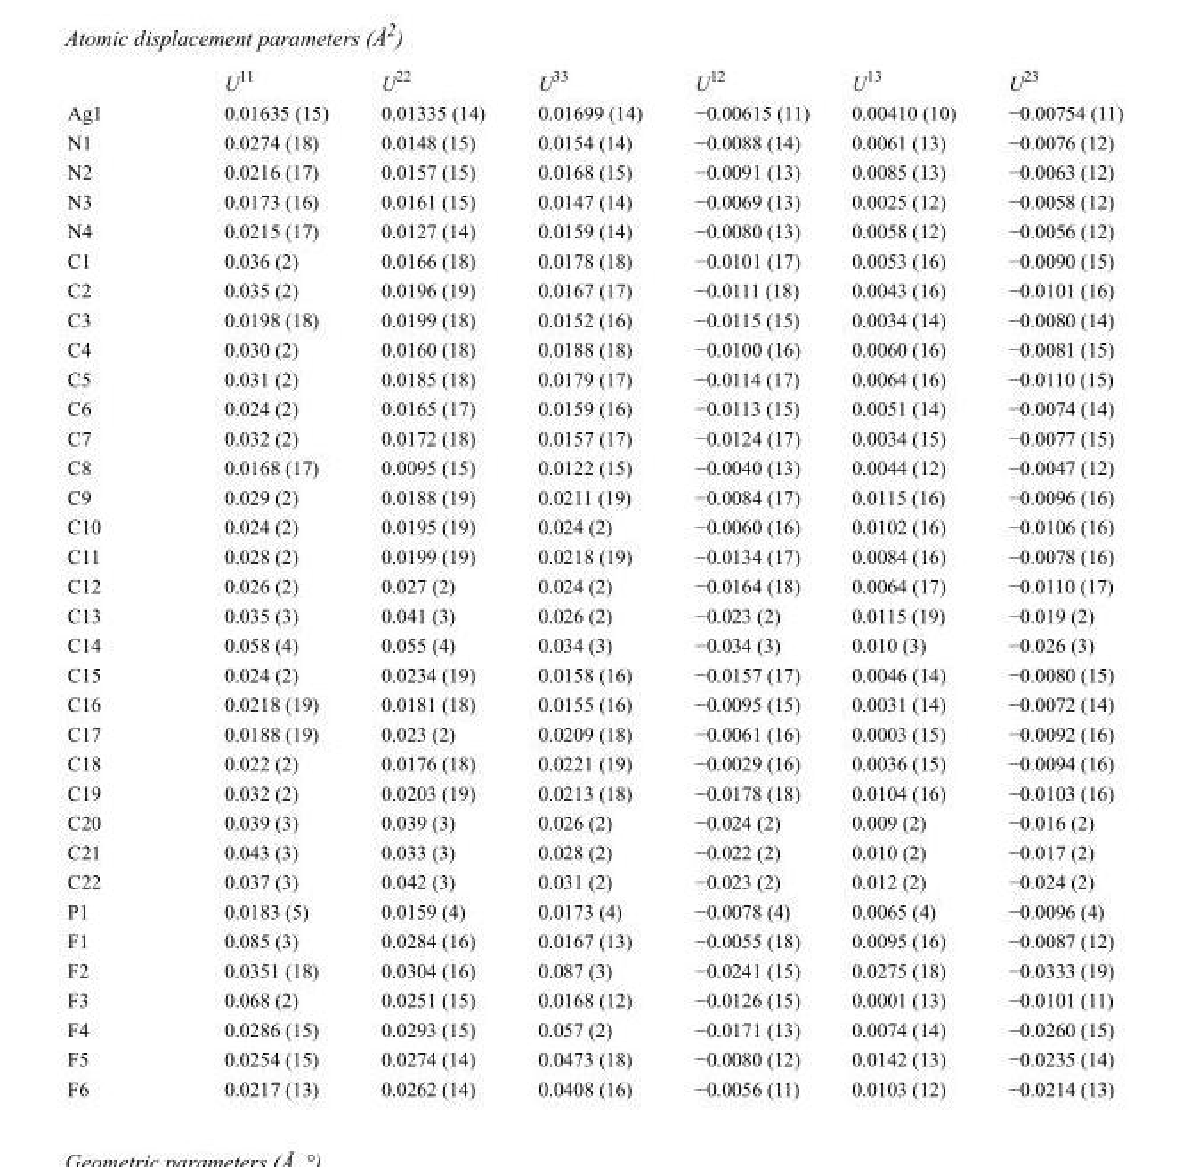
<table><thead><tr><td></td><td>U<sup>11</sup></td><td>U<sup>22</sup></td><td>U<sup>33</sup></td><td>U<sup>12</sup></td><td>U<sup>13</sup></td><td>U<sup>23</sup></td></tr></thead><tbody><tr><td>Ag1</td><td>0.01635 (15)</td><td>0.01335 (14)</td><td>0.01699 (14)</td><td>−0.00615 (11)</td><td>0.00410 (10)</td><td>−0.00754 (11)</td></tr><tr><td>N1</td><td>0.0274 (18)</td><td>0.0148 (15)</td><td>0.0154 (14)</td><td>−0.0088 (14)</td><td>0.0061 (13)</td><td>−0.0076 (12)</td></tr><tr><td>N2</td><td>0.0216 (17)</td><td>0.0157 (15)</td><td>0.0168 (15)</td><td>−0.0091 (13)</td><td>0.0085 (13)</td><td>−0.0063 (12)</td></tr><tr><td>N3</td><td>0.0173 (16)</td><td>0.0161 (15)</td><td>0.0147 (14)</td><td>−0.0069 (13)</td><td>0.0025 (12)</td><td>−0.0058 (12)</td></tr><tr><td>N4</td><td>0.0215 (17)</td><td>0.0127 (14)</td><td>0.0159 (14)</td><td>−0.0080 (13)</td><td>0.0058 (12)</td><td>−0.0056 (12)</td></tr><tr><td>C1</td><td>0.036 (2)</td><td>0.0166 (18)</td><td>0.0178 (18)</td><td>−0.0101 (17)</td><td>0.0053 (16)</td><td>−0.0090 (15)</td></tr><tr><td>C2</td><td>0.035 (2)</td><td>0.0196 (19)</td><td>0.0167 (17)</td><td>−0.0111 (18)</td><td>0.0043 (16)</td><td>−0.0101 (16)</td></tr><tr><td>C3</td><td>0.0198 (18)</td><td>0.0199 (18)</td><td>0.0152 (16)</td><td>−0.0115 (15)</td><td>0.0034 (14)</td><td>−0.0080 (14)</td></tr><tr><td>C4</td><td>0.030 (2)</td><td>0.0160 (18)</td><td>0.0188 (18)</td><td>−0.0100 (16)</td><td>0.0060 (16)</td><td>−0.0081 (15)</td></tr><tr><td>C5</td><td>0.031 (2)</td><td>0.0185 (18)</td><td>0.0179 (17)</td><td>−0.0114 (17)</td><td>0.0064 (16)</td><td>−0.0110 (15)</td></tr><tr><td>C6</td><td>0.024 (2)</td><td>0.0165 (17)</td><td>0.0159 (16)</td><td>−0.0113 (15)</td><td>0.0051 (14)</td><td>−0.0074 (14)</td></tr><tr><td>C7</td><td>0.032 (2)</td><td>0.0172 (18)</td><td>0.0157 (17)</td><td>−0.0124 (17)</td><td>0.0034 (15)</td><td>−0.0077 (15)</td></tr><tr><td>C8</td><td>0.0168 (17)</td><td>0.0095 (15)</td><td>0.0122 (15)</td><td>−0.0040 (13)</td><td>0.0044 (12)</td><td>−0.0047 (12)</td></tr><tr><td>C9</td><td>0.029 (2)</td><td>0.0188 (19)</td><td>0.0211 (19)</td><td>−0.0084 (17)</td><td>0.0115 (16)</td><td>−0.0096 (16)</td></tr><tr><td>C10</td><td>0.024 (2)</td><td>0.0195 (19)</td><td>0.024 (2)</td><td>−0.0060 (16)</td><td>0.0102 (16)</td><td>−0.0106 (16)</td></tr><tr><td>C11</td><td>0.028 (2)</td><td>0.0199 (19)</td><td>0.0218 (19)</td><td>−0.0134 (17)</td><td>0.0084 (16)</td><td>−0.0078 (16)</td></tr><tr><td>C12</td><td>0.026 (2)</td><td>0.027 (2)</td><td>0.024 (2)</td><td>−0.0164 (18)</td><td>0.0064 (17)</td><td>−0.0110 (17)</td></tr><tr><td>C13</td><td>0.035 (3)</td><td>0.041 (3)</td><td>0.026 (2)</td><td>−0.023 (2)</td><td>0.0115 (19)</td><td>−0.019 (2)</td></tr><tr><td>C14</td><td>0.058 (4)</td><td>0.055 (4)</td><td>0.034 (3)</td><td>−0.034 (3)</td><td>0.010 (3)</td><td>−0.026 (3)</td></tr><tr><td>C15</td><td>0.024 (2)</td><td>0.0234 (19)</td><td>0.0158 (16)</td><td>−0.0157 (17)</td><td>0.0046 (14)</td><td>−0.0080 (15)</td></tr><tr><td>C16</td><td>0.0218 (19)</td><td>0.0181 (18)</td><td>0.0155 (16)</td><td>−0.0095 (15)</td><td>0.0031 (14)</td><td>−0.0072 (14)</td></tr><tr><td>C17</td><td>0.0188 (19)</td><td>0.023 (2)</td><td>0.0209 (18)</td><td>−0.0061 (16)</td><td>0.0003 (15)</td><td>−0.0092 (16)</td></tr><tr><td>C18</td><td>0.022 (2)</td><td>0.0176 (18)</td><td>0.0221 (19)</td><td>−0.0029 (16)</td><td>0.0036 (15)</td><td>−0.0094 (16)</td></tr><tr><td>C19</td><td>0.032 (2)</td><td>0.0203 (19)</td><td>0.0213 (18)</td><td>−0.0178 (18)</td><td>0.0104 (16)</td><td>−0.0103 (16)</td></tr><tr><td>C20</td><td>0.039 (3)</td><td>0.039 (3)</td><td>0.026 (2)</td><td>−0.024 (2)</td><td>0.009 (2)</td><td>−0.016 (2)</td></tr><tr><td>C21</td><td>0.043 (3)</td><td>0.033 (3)</td><td>0.028 (2)</td><td>−0.022 (2)</td><td>0.010 (2)</td><td>−0.017 (2)</td></tr><tr><td>C22</td><td>0.037 (3)</td><td>0.042 (3)</td><td>0.031 (2)</td><td>−0.023 (2)</td><td>0.012 (2)</td><td>−0.024 (2)</td></tr><tr><td>P1</td><td>0.0183 (5)</td><td>0.0159 (4)</td><td>0.0173 (4)</td><td>−0.0078 (4)</td><td>0.0065 (4)</td><td>−0.0096 (4)</td></tr><tr><td>F1</td><td>0.085 (3)</td><td>0.0284 (16)</td><td>0.0167 (13)</td><td>−0.0055 (18)</td><td>0.0095 (16)</td><td>−0.0087 (12)</td></tr><tr><td>F2</td><td>0.0351 (18)</td><td>0.0304 (16)</td><td>0.087 (3)</td><td>−0.0241 (15)</td><td>0.0275 (18)</td><td>−0.0333 (19)</td></tr><tr><td>F3</td><td>0.068 (2)</td><td>0.0251 (15)</td><td>0.0168 (12)</td><td>−0.0126 (15)</td><td>0.0001 (13)</td><td>−0.0101 (11)</td></tr><tr><td>F4</td><td>0.0286 (15)</td><td>0.0293 (15)</td><td>0.057 (2)</td><td>−0.0171 (13)</td><td>0.0074 (14)</td><td>−0.0260 (15)</td></tr><tr><td>F5</td><td>0.0254 (15)</td><td>0.0274 (14)</td><td>0.0473 (18)</td><td>−0.0080 (12)</td><td>0.0142 (13)</td><td>−0.0235 (14)</td></tr><tr><td>F6</td><td>0.0217 (13)</td><td>0.0262 (14)</td><td>0.0408 (16)</td><td>−0.0056 (11)</td><td>0.0103 (12)</td><td>−0.0214 (13)</td></tr></tbody></table>